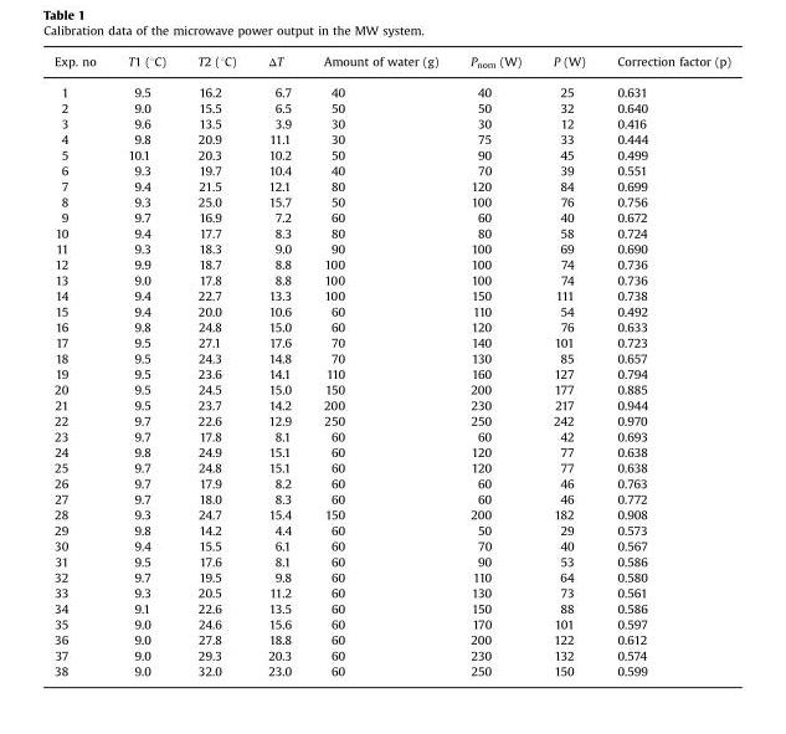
<table><thead><tr><td>Exp. no</td><td>T1 (°C)</td><td>T2 (°C)</td><td>ΔT</td><td>Amount of water (g)</td><td>P<sub>nom</sub> (W)</td><td>P (W)</td><td>Correction factor (p)</td></tr></thead><tbody><tr><td>1</td><td>9.5</td><td>16.2</td><td>6.7</td><td>40</td><td>40</td><td>25</td><td>0.631</td></tr><tr><td>2</td><td>9.0</td><td>15.5</td><td>6.5</td><td>50</td><td>50</td><td>32</td><td>0.640</td></tr><tr><td>3</td><td>9.6</td><td>13.5</td><td>3.9</td><td>30</td><td>30</td><td>12</td><td>0.416</td></tr><tr><td>4</td><td>9.8</td><td>20.9</td><td>11.1</td><td>30</td><td>75</td><td>33</td><td>0.444</td></tr><tr><td>5</td><td>10.1</td><td>20.3</td><td>10.2</td><td>50</td><td>90</td><td>45</td><td>0.499</td></tr><tr><td>6</td><td>9.3</td><td>19.7</td><td>10.4</td><td>40</td><td>70</td><td>39</td><td>0.551</td></tr><tr><td>7</td><td>9.4</td><td>21.5</td><td>12.1</td><td>80</td><td>120</td><td>84</td><td>0.699</td></tr><tr><td>8</td><td>9.3</td><td>25.0</td><td>15.7</td><td>50</td><td>100</td><td>76</td><td>0.756</td></tr><tr><td>9</td><td>9.7</td><td>16.9</td><td>7.2</td><td>60</td><td>60</td><td>40</td><td>0.672</td></tr><tr><td>10</td><td>9.4</td><td>17.7</td><td>8.3</td><td>80</td><td>80</td><td>58</td><td>0.724</td></tr><tr><td>11</td><td>9.3</td><td>18.3</td><td>9.0</td><td>90</td><td>100</td><td>69</td><td>0.690</td></tr><tr><td>12</td><td>9.9</td><td>18.7</td><td>8.8</td><td>100</td><td>100</td><td>74</td><td>0.736</td></tr><tr><td>13</td><td>9.0</td><td>17.8</td><td>8.8</td><td>100</td><td>100</td><td>74</td><td>0.736</td></tr><tr><td>14</td><td>9.4</td><td>22.7</td><td>13.3</td><td>100</td><td>150</td><td>111</td><td>0.738</td></tr><tr><td>15</td><td>9.4</td><td>20.0</td><td>10.6</td><td>60</td><td>110</td><td>54</td><td>0.492</td></tr><tr><td>16</td><td>9.8</td><td>24.8</td><td>15.0</td><td>60</td><td>120</td><td>76</td><td>0.633</td></tr><tr><td>17</td><td>9.5</td><td>27.1</td><td>17.6</td><td>70</td><td>140</td><td>101</td><td>0.723</td></tr><tr><td>18</td><td>9.5</td><td>24.3</td><td>14.8</td><td>70</td><td>130</td><td>85</td><td>0.657</td></tr><tr><td>19</td><td>9.5</td><td>23.6</td><td>14.1</td><td>110</td><td>160</td><td>127</td><td>0.794</td></tr><tr><td>20</td><td>9.5</td><td>24.5</td><td>15.0</td><td>150</td><td>200</td><td>177</td><td>0.885</td></tr><tr><td>21</td><td>9.5</td><td>23.7</td><td>14.2</td><td>200</td><td>230</td><td>217</td><td>0.944</td></tr><tr><td>22</td><td>9.7</td><td>22.6</td><td>12.9</td><td>250</td><td>250</td><td>242</td><td>0.970</td></tr><tr><td>23</td><td>9.7</td><td>17.8</td><td>8.1</td><td>60</td><td>60</td><td>42</td><td>0.693</td></tr><tr><td>24</td><td>9.8</td><td>24.9</td><td>15.1</td><td>60</td><td>120</td><td>77</td><td>0.638</td></tr><tr><td>25</td><td>9.7</td><td>24.8</td><td>15.1</td><td>60</td><td>120</td><td>77</td><td>0.638</td></tr><tr><td>26</td><td>9.7</td><td>17.9</td><td>8.2</td><td>60</td><td>60</td><td>46</td><td>0.763</td></tr><tr><td>27</td><td>9.7</td><td>18.0</td><td>8.3</td><td>60</td><td>60</td><td>46</td><td>0.772</td></tr><tr><td>28</td><td>9.3</td><td>24.7</td><td>15.4</td><td>150</td><td>200</td><td>182</td><td>0.908</td></tr><tr><td>29</td><td>9.8</td><td>14.2</td><td>4.4</td><td>60</td><td>50</td><td>29</td><td>0.573</td></tr><tr><td>30</td><td>9.4</td><td>15.5</td><td>6.1</td><td>60</td><td>70</td><td>40</td><td>0.567</td></tr><tr><td>31</td><td>9.5</td><td>17.6</td><td>8.1</td><td>60</td><td>90</td><td>53</td><td>0.586</td></tr><tr><td>32</td><td>9.7</td><td>19.5</td><td>9.8</td><td>60</td><td>110</td><td>64</td><td>0.580</td></tr><tr><td>33</td><td>9.3</td><td>20.5</td><td>11.2</td><td>60</td><td>130</td><td>73</td><td>0.561</td></tr><tr><td>34</td><td>9.1</td><td>22.6</td><td>13.5</td><td>60</td><td>150</td><td>88</td><td>0.586</td></tr><tr><td>35</td><td>9.0</td><td>24.6</td><td>15.6</td><td>60</td><td>170</td><td>101</td><td>0.597</td></tr><tr><td>36</td><td>9.0</td><td>27.8</td><td>18.8</td><td>60</td><td>200</td><td>122</td><td>0.612</td></tr><tr><td>37</td><td>9.0</td><td>29.3</td><td>20.3</td><td>60</td><td>230</td><td>132</td><td>0.574</td></tr><tr><td>38</td><td>9.0</td><td>32.0</td><td>23.0</td><td>60</td><td>250</td><td>150</td><td>0.599</td></tr></tbody></table>